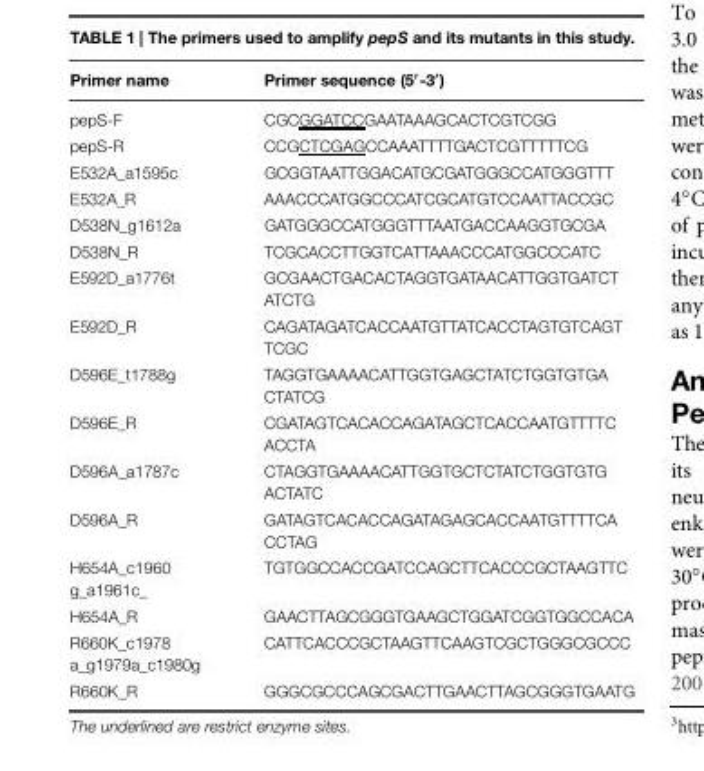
<table><thead><tr><td>Primer name</td><td>Primer sequence (5′-3′)</td></tr></thead><tbody><tr><td>pepS-F</td><td>CGCGGATCCGAATAAAGCACTCGTCGG</td></tr><tr><td>pepS-R</td><td>CCGCTCGAGCCAAATTTTGACTCGTTTTTCG</td></tr><tr><td>E532A_a1595c</td><td>GCGGTAATTGGACATGCGATGGGCCATGGGTTT</td></tr><tr><td>E532A_R</td><td>AAACCCATGGCCCATCGCATGTCCAATTACCGC</td></tr><tr><td>D538N_g1612a</td><td>GATGGGCCATGGGTTTAATGACCAAGGTGCGA</td></tr><tr><td>D538N_R</td><td>TCGCACCTTGGTCATTAAACCCATGGCCCATC</td></tr><tr><td>E592D_a1776t</td><td>GCGAACTGACACTAGGTGATAACATTGGTGATCT ATCTG</td></tr><tr><td>E592D_R</td><td>CAGATAGATCACCAATGTTATCACCTAGTGTCAGT TCGC</td></tr><tr><td>D596E_t1788g</td><td>TAGGTGAAAACATTGGTGAGCTATCTGGTGTGA CTATCG</td></tr><tr><td>D596E_R</td><td>CGATAGTCACACCAGATAGCTCACCAATGTTTTC ACCTA</td></tr><tr><td>D596A_a1787c</td><td>CTAGGTGAAAACATTGGTGCTCTATCTGGTGTG ACTATC</td></tr><tr><td>D596A_R</td><td>GATAGTCACACCAGATAGAGCACCAATGTTTTCA CCTAG</td></tr><tr><td>H654A_c1960 g_a1961c_</td><td>TGTGGCCACCGATCCAGCTTCACCCGCTAAGTTC</td></tr><tr><td>H654A_R</td><td>GAACTTAGCGGGTGAAGCTGGATCGGTGGCCACA</td></tr><tr><td>R660K_c1978 a_g1979a_c1980g</td><td>CATTCACCCGCTAAGTTCAAGTCGCTGGGCGCCC</td></tr><tr><td>R660K_R</td><td>GGGCGCCCAGCGACTTGAACTTAGCGGGTGAATG</td></tr></tbody></table>